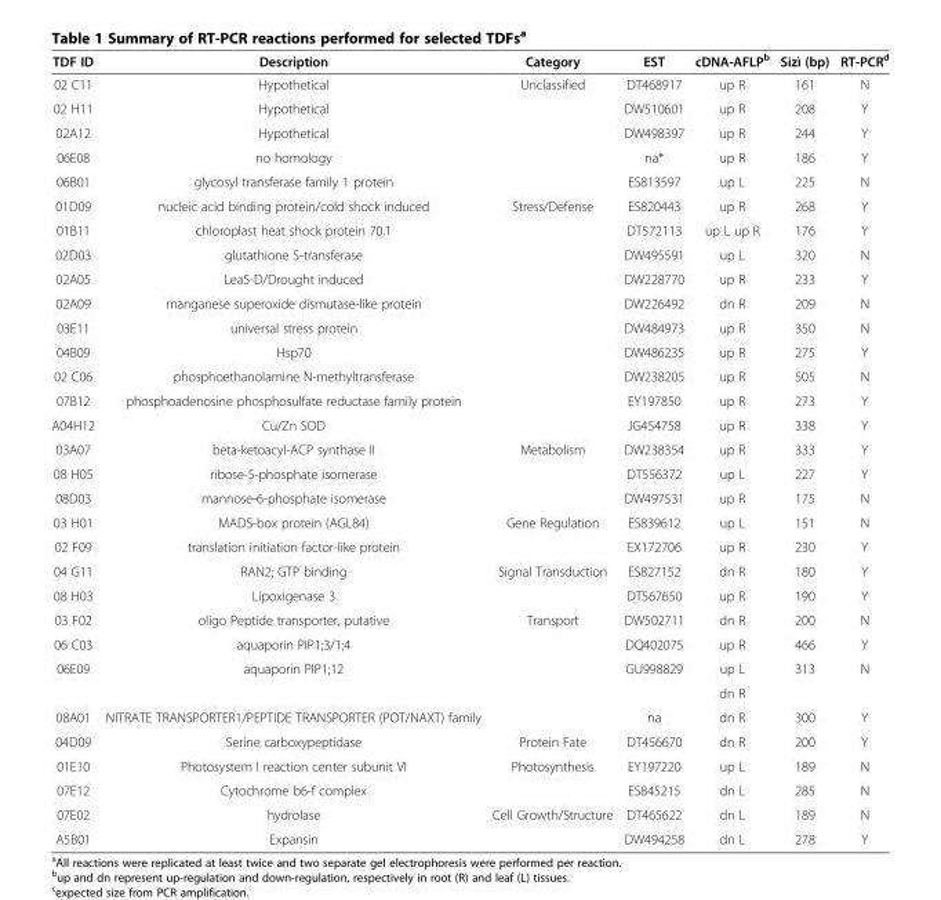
<table><thead><tr><td>TDF ID</td><td>Description</td><td>Category</td><td>EST</td><td>cDNA-AFLP<sup>b</sup></td><td>Sizì (bp)</td><td>RT-PCR<sup>d</sup></td></tr></thead><tbody><tr><td>02 C11</td><td>Hypothetical</td><td rowspan="5">Unclassified</td><td>DT468917</td><td>up R</td><td>161</td><td>N</td></tr><tr><td>02 H11</td><td>Hypothetical</td><td>DW510601</td><td>up R</td><td>208</td><td>Y</td></tr><tr><td>02A12</td><td>Hypothetical</td><td>DW498397</td><td>up R</td><td>244</td><td>Y</td></tr><tr><td>06E08</td><td>no homology</td><td>na*</td><td>up R</td><td>186</td><td>Y</td></tr><tr><td>06B01</td><td>glycosyl transferase family 1 protein</td><td>ES813597</td><td>up L</td><td>225</td><td>N</td></tr><tr><td>01D09</td><td>nucleic acid binding protein/cold shock induced</td><td rowspan="10">Stress/Defense</td><td>ES820443</td><td>up R</td><td>268</td><td>Y</td></tr><tr><td>01B11</td><td>chloroplast heat shock protein 70.1</td><td>DT572113</td><td>up L up R</td><td>176</td><td>Y</td></tr><tr><td>02D03</td><td>glutathione S-transferase</td><td>DW495591</td><td>up L</td><td>320</td><td>N</td></tr><tr><td>02A05</td><td>Lea5-D/Drought induced</td><td>DW228770</td><td>up R</td><td>233</td><td>Y</td></tr><tr><td>02A09</td><td>manganese superoxide dismutase-like protein</td><td>DW226492</td><td>dn R</td><td>209</td><td>N</td></tr><tr><td>03E11</td><td>universal stress protein</td><td>DW484973</td><td>up R</td><td>350</td><td>N</td></tr><tr><td>04B09</td><td>Hsp70</td><td>DW486235</td><td>up R</td><td>275</td><td>Y</td></tr><tr><td>02 C06</td><td>phosphoethanolamine N-methyltransferase</td><td>DW238205</td><td>up R</td><td>505</td><td>N</td></tr><tr><td>07B12</td><td>phosphoadenosine phosphosulfate reductase family protein</td><td>EY197850</td><td>up R</td><td>273</td><td>Y</td></tr><tr><td>A04H12</td><td>Cu/Zn SOD</td><td>JG454758</td><td>up R</td><td>338</td><td>Y</td></tr><tr><td>03A07</td><td>beta-ketoacyl-ACP synthase II</td><td rowspan="3">Metabolism</td><td>DW238354</td><td>up R</td><td>333</td><td>Y</td></tr><tr><td>08 H05</td><td>ribose-5-phosphate isomerase</td><td>DT556372</td><td>up L</td><td>227</td><td>Y</td></tr><tr><td>08D03</td><td>mannose-6-phosphate isomerase</td><td>DW497531</td><td>up R</td><td>175</td><td>N</td></tr><tr><td>03 H01</td><td>MADS-box protein (AGL84)</td><td rowspan="2">Gene Regulation</td><td>ES839612</td><td>up L</td><td>151</td><td>N</td></tr><tr><td>02 F09</td><td>translation initiation factor-like protein</td><td>EX172706</td><td>up R</td><td>230</td><td>Y</td></tr><tr><td>04 G11</td><td>RAN2; GTP binding</td><td rowspan="2">Signal Transduction</td><td>ES827152</td><td>dn R</td><td>180</td><td>Y</td></tr><tr><td>08 H03</td><td>Lipoxigenase 3</td><td>DT567650</td><td>up R</td><td>190</td><td>Y</td></tr><tr><td>03 F02</td><td>oligo Peptide transporter, putative</td><td rowspan="5">Transport</td><td>DW502711</td><td>dn R</td><td>200</td><td>N</td></tr><tr><td>06 C03</td><td>aquaporin PIP1;3/1;4</td><td>DQ402075</td><td>up R</td><td>466</td><td>Y</td></tr><tr><td rowspan="2">06E09</td><td>aquaporin PIP1;12</td><td>GU998829</td><td>up L</td><td>313</td><td>N</td></tr><tr><td></td><td></td><td>dn R</td><td></td><td></td></tr><tr><td>08A01</td><td>NITRATE TRANSPORTER1/PEPTIDE TRANSPORTER (POT/NAXT) family</td><td>na</td><td>dn R</td><td>300</td><td>Y</td></tr><tr><td>04D09</td><td>Serine carboxypeptidase</td><td>Protein Fate</td><td>DT456670</td><td>dn R</td><td>200</td><td>Y</td></tr><tr><td>01E10</td><td>Photosystem I reaction center subunit VI</td><td>Photosynthesis</td><td>EY197220</td><td>up L</td><td>189</td><td>N</td></tr><tr><td>07E12</td><td>Cytochrome b6-f complex</td><td></td><td>ES845215</td><td>dn L</td><td>285</td><td>N</td></tr><tr><td>07E02</td><td>hydrolase</td><td>Cell Growth/Structure</td><td>DT465622</td><td>dn L</td><td>189</td><td>N</td></tr><tr><td>A5B01</td><td>Expansin</td><td></td><td>DW494258</td><td>dn L</td><td>278</td><td>Y</td></tr></tbody></table>